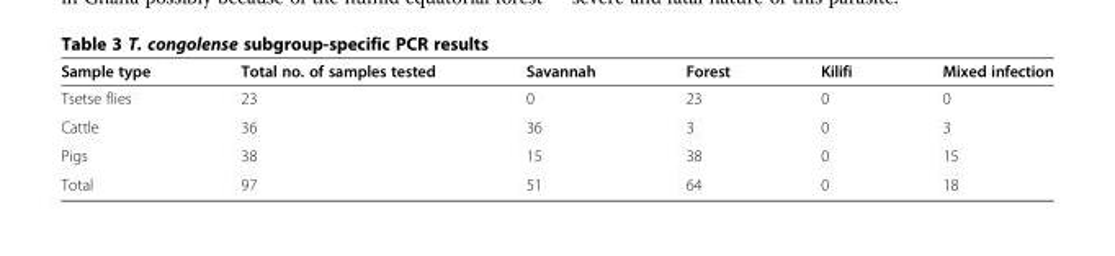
<table><thead><tr><td>Sample type</td><td>Total no. of samples tested</td><td>Savannah</td><td>Forest</td><td>Kilifi</td><td>Mixed infection</td></tr></thead><tbody><tr><td>Tsetse flies</td><td>23</td><td>0</td><td>23</td><td>0</td><td>0</td></tr><tr><td>Cattle</td><td>36</td><td>36</td><td>3</td><td>0</td><td>3</td></tr><tr><td>Pigs</td><td>38</td><td>15</td><td>38</td><td>0</td><td>15</td></tr><tr><td>Total</td><td>97</td><td>51</td><td>64</td><td>0</td><td>18</td></tr></tbody></table>